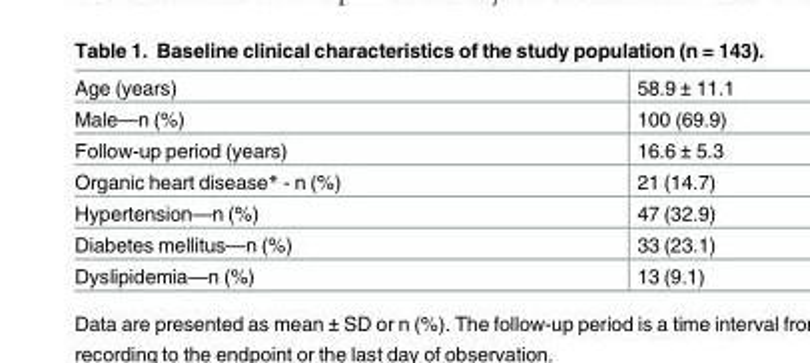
<table><tbody><tr><td>Age (years)</td><td>58.9 ± 11.1</td></tr><tr><td>Male—n (%)</td><td>100 (69.9)</td></tr><tr><td>Follow-up period (years)</td><td>16.6 ± 5.3</td></tr><tr><td>Organic heart disease* - n (%)</td><td>21 (14.7)</td></tr><tr><td>Hypertension—n (%)</td><td>47 (32.9)</td></tr><tr><td>Diabetes mellitus—n (%)</td><td>33 (23.1)</td></tr><tr><td>Dyslipidemia—n (%)</td><td>13 (9.1)</td></tr></tbody></table>